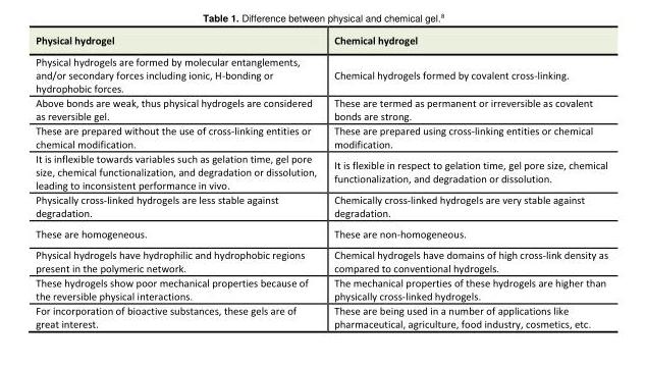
<table><tbody><tr><td>Physical hydrogel</td><td>Chemical hydrogel</td></tr><tr><td>Physical hydrogels are formed by molecular entanglements, and/or secondary forces including ionic, H-bonding or hydrophobic forces.</td><td>Chemical hydrogels formed by covalent cross-linking.</td></tr><tr><td>Above bonds are weak, thus physical hydrogels are considered as reversible gel.</td><td>These are termed as permanent or irreversible as covalent bonds are strong.</td></tr><tr><td>These are prepared without the use of cross-linking entities or chemical modification.</td><td>These are prepared using cross-linking entities or chemical modification.</td></tr><tr><td>It is inflexible towards variables such as gelation time, gel pore size, chemical functionalization, and degradation or dissolution, leading to inconsistent performance in vivo.</td><td>It is flexible in respect to gelation time, gel pore size, chemical functionalization, and degradation or dissolution.</td></tr><tr><td>Physically cross-linked hydrogels are less stable against degradation.</td><td>Chemically cross-linked hydrogels are very stable against degradation.</td></tr><tr><td>These are homogeneous.</td><td>These are non-homogeneous.</td></tr><tr><td>Physical hydrogels have hydrophilic and hydrophobic regions present in the polymeric network.</td><td>Chemical hydrogels have domains of high cross-link density as compared to conventional hydrogels.</td></tr><tr><td>These hydrogels show poor mechanical properties because of the reversible physical interactions.</td><td>The mechanical properties of these hydrogels are higher than physically cross-linked hydrogels.</td></tr><tr><td>For incorporation of bioactive substances, these gels are of great interest.</td><td>These are being used in a number of applications like pharmaceutical, agriculture, food industry, cosmetics, etc.</td></tr></tbody></table>